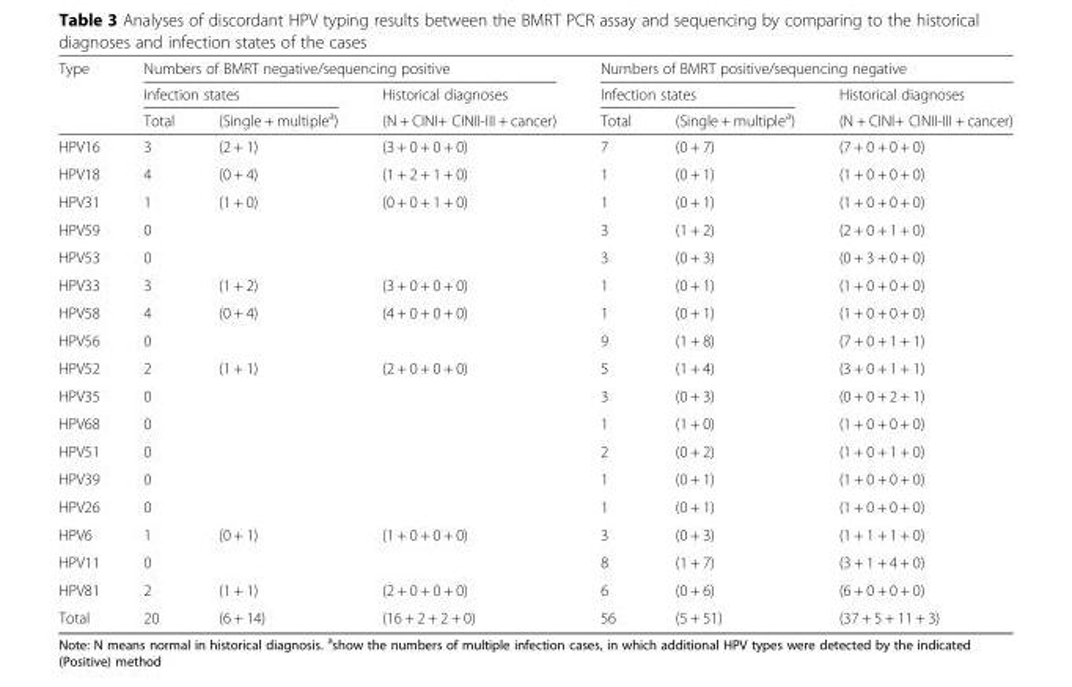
<table><thead><tr><td rowspan="3">Type</td><td colspan="3">Numbers of BMRT negative/sequencing positive</td><td colspan="3">Numbers of BMRT positive/sequencing negative</td></tr><tr><td colspan="2">Infection states</td><td rowspan="2">Historical diagnoses (N + CINI+ CINII-III + cancer)</td><td colspan="2">Infection states</td><td rowspan="2">Historical diagnoses (N + CINI+ CINII-III + cancer)</td></tr><tr><td>Total</td><td>(Single + multiple<sup>a</sup>)</td><td>Total</td><td>(Single + multiple<sup>a</sup>)</td></tr></thead><tbody><tr><td>HPV16</td><td>3</td><td>(2 + 1)</td><td>(3 + 0 + 0 + 0)</td><td>7</td><td>(0 + 7)</td><td>(7 + 0 + 0 + 0)</td></tr><tr><td>HPV18</td><td>4</td><td>(0 + 4)</td><td>(1 + 2 + 1 + 0)</td><td>1</td><td>(0 + 1)</td><td>(1 + 0 + 0 + 0)</td></tr><tr><td>HPV31</td><td>1</td><td>(1 + 0)</td><td>(0 + 0 + 1 + 0)</td><td>1</td><td>(0 + 1)</td><td>(1 + 0 + 0 + 0)</td></tr><tr><td>HPV59</td><td>0</td><td></td><td></td><td>3</td><td>(1 + 2)</td><td>(2 + 0 + 1 + 0)</td></tr><tr><td>HPV53</td><td>0</td><td></td><td></td><td>3</td><td>(0 + 3)</td><td>(0 + 3 + 0 + 0)</td></tr><tr><td>HPV33</td><td>3</td><td>(1 + 2)</td><td>(3 + 0 + 0 + 0)</td><td>1</td><td>(0 + 1)</td><td>(1 + 0 + 0 + 0)</td></tr><tr><td>HPV58</td><td>4</td><td>(0 + 4)</td><td>(4 + 0 + 0 + 0)</td><td>1</td><td>(0 + 1)</td><td>(1 + 0 + 0 + 0)</td></tr><tr><td>HPV56</td><td>0</td><td></td><td></td><td>9</td><td>(1 + 8)</td><td>(7 + 0 + 1 + 1)</td></tr><tr><td>HPV52</td><td>2</td><td>(1 + 1)</td><td>(2 + 0 + 0 + 0)</td><td>5</td><td>(1 + 4)</td><td>(3 + 0 + 1 + 1)</td></tr><tr><td>HPV35</td><td>0</td><td></td><td></td><td>3</td><td>(0 + 3)</td><td>(0 + 0 + 2 + 1)</td></tr><tr><td>HPV68</td><td>0</td><td></td><td></td><td>1</td><td>(1 + 0)</td><td>(1 + 0 + 0 + 0)</td></tr><tr><td>HPV51</td><td>0</td><td></td><td></td><td>2</td><td>(0 + 2)</td><td>(1 + 0 + 1 + 0)</td></tr><tr><td>HPV39</td><td>0</td><td></td><td></td><td>1</td><td>(0 + 1)</td><td>(1 + 0 + 0 + 0)</td></tr><tr><td>HPV26</td><td>0</td><td></td><td></td><td>1</td><td>(0 + 1)</td><td>(1 + 0 + 0 + 0)</td></tr><tr><td>HPV6</td><td>1</td><td>(0 + 1)</td><td>(1 + 0 + 0 + 0)</td><td>3</td><td>(0 + 3)</td><td>(1 + 1 + 1 + 0)</td></tr><tr><td>HPV11</td><td>0</td><td></td><td></td><td>8</td><td>(1 + 7)</td><td>(3 + 1 + 4 + 0)</td></tr><tr><td>HPV81</td><td>2</td><td>(1 + 1)</td><td>(2 + 0 + 0 + 0)</td><td>6</td><td>(0 + 6)</td><td>(6 + 0 + 0 + 0)</td></tr><tr><td>Total</td><td>20</td><td>(6 + 14)</td><td>(16 + 2 + 2 + 0)</td><td>56</td><td>(5 + 51)</td><td>(37 + 5 + 11 + 3)</td></tr></tbody></table>